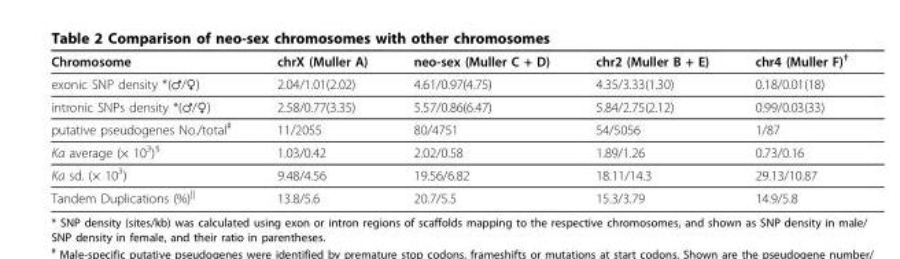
<table><thead><tr><td>Chromosome</td><td>chrX (Muller A)</td><td>neo-sex (Muller C + D)</td><td>chr2 (Muller B + E)</td><td>chr4 (Muller F)<sup>†</sup></td></tr></thead><tbody><tr><td>exonic SNP density *(♂/♀)</td><td>2.04/1.01(2.02)</td><td>4.61/0.97(4.75)</td><td>4.35/3.33(1.30)</td><td>0.18/0.01(18)</td></tr><tr><td>intronic SNPs density *(♂/♀)</td><td>2.58/0.77(3.35)</td><td>5.57/0.86(6.47)</td><td>5.84/2.75(2.12)</td><td>0.99/0.03(33)</td></tr><tr><td>putative pseudogenes No./total<sup>#</sup></td><td>11/2055</td><td>80/4751</td><td>54/5056</td><td>1/87</td></tr><tr><td>Ka average (× 10<sup>3</sup>)<sup>§</sup></td><td>1.03/0.42</td><td>2.02/0.58</td><td>1.89/1.26</td><td>0.73/0.16</td></tr><tr><td>Ka sd. (× 10<sup>3</sup>)</td><td>9.48/4.56</td><td>19.56/6.82</td><td>18.11/14.3</td><td>29.13/10.87</td></tr><tr><td>Tandem Duplications (%)<sup>||</sup></td><td>13.8/5.6</td><td>20.7/5.5</td><td>15.3/3.79</td><td>14.9/5.8</td></tr></tbody></table>